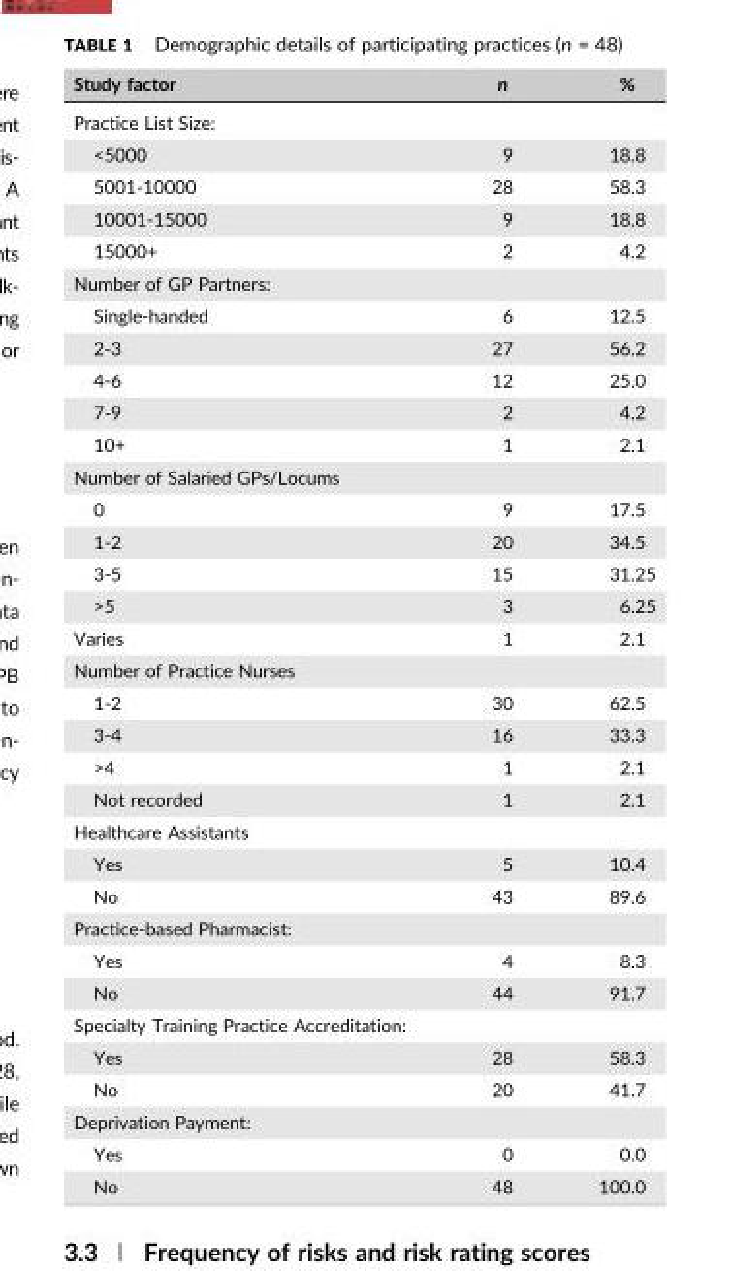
<table><thead><tr><td>Study factor</td><td>n</td><td>%</td></tr></thead><tbody><tr><td colspan="3">Practice List Size:</td></tr><tr><td>&lt;5000</td><td>9</td><td>18.8</td></tr><tr><td>5001‐10000</td><td>28</td><td>58.3</td></tr><tr><td>10001‐15000</td><td>9</td><td>18.8</td></tr><tr><td>15000+</td><td>2</td><td>4.2</td></tr><tr><td colspan="3">Number of GP Partners:</td></tr><tr><td>Single‐handed</td><td>6</td><td>12.5</td></tr><tr><td>2‐3</td><td>27</td><td>56.2</td></tr><tr><td>4‐6</td><td>12</td><td>25.0</td></tr><tr><td>7‐9</td><td>2</td><td>4.2</td></tr><tr><td>10+</td><td>1</td><td>2.1</td></tr><tr><td colspan="3">Number of Salaried GPs/Locums</td></tr><tr><td>0</td><td>9</td><td>17.5</td></tr><tr><td>1‐2</td><td>20</td><td>34.5</td></tr><tr><td>3‐5</td><td>15</td><td>31.25</td></tr><tr><td>&gt;5</td><td>3</td><td>6.25</td></tr><tr><td>Varies</td><td>1</td><td>2.1</td></tr><tr><td colspan="3">Number of Practice Nurses</td></tr><tr><td>1‐2</td><td>30</td><td>62.5</td></tr><tr><td>3‐4</td><td>16</td><td>33.3</td></tr><tr><td>&gt;4</td><td>1</td><td>2.1</td></tr><tr><td>Not recorded</td><td>1</td><td>2.1</td></tr><tr><td colspan="3">Healthcare Assistants</td></tr><tr><td>Yes</td><td>5</td><td>10.4</td></tr><tr><td>No</td><td>43</td><td>89.6</td></tr><tr><td colspan="3">Practice‐based Pharmacist:</td></tr><tr><td>Yes</td><td>4</td><td>8.3</td></tr><tr><td>No</td><td>44</td><td>91.7</td></tr><tr><td colspan="3">Specialty Training Practice Accreditation:</td></tr><tr><td>Yes</td><td>28</td><td>58.3</td></tr><tr><td>No</td><td>20</td><td>41.7</td></tr><tr><td colspan="3">Deprivation Payment:</td></tr><tr><td>Yes</td><td>0</td><td>0.0</td></tr><tr><td>No</td><td>48</td><td>100.0</td></tr></tbody></table>